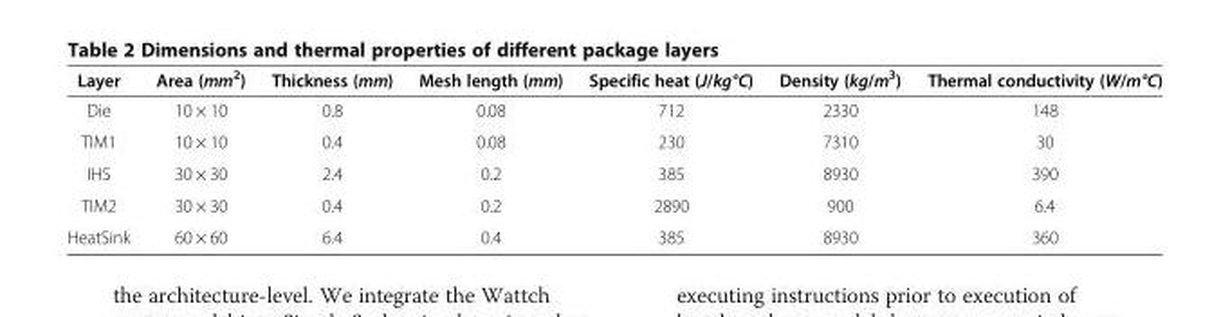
<table><thead><tr><td>Layer</td><td>Area (mm<sup>2</sup>)</td><td>Thickness (mm)</td><td>Mesh length (mm)</td><td>Specific heat (J/kg°C)</td><td>Density (kg/m<sup>3</sup>)</td><td>Thermal conductivity (W/m°C)</td></tr></thead><tbody><tr><td>Die</td><td>10 × 10</td><td>0.8</td><td>0.08</td><td>712</td><td>2330</td><td>148</td></tr><tr><td>TIM1</td><td>10 × 10</td><td>0.4</td><td>0.08</td><td>230</td><td>7310</td><td>30</td></tr><tr><td>IHS</td><td>30 × 30</td><td>2.4</td><td>0.2</td><td>385</td><td>8930</td><td>390</td></tr><tr><td>TIM2</td><td>30 × 30</td><td>0.4</td><td>0.2</td><td>2890</td><td>900</td><td>6.4</td></tr><tr><td>HeatSink</td><td>60 × 60</td><td>6.4</td><td>0.4</td><td>385</td><td>8930</td><td>360</td></tr></tbody></table>